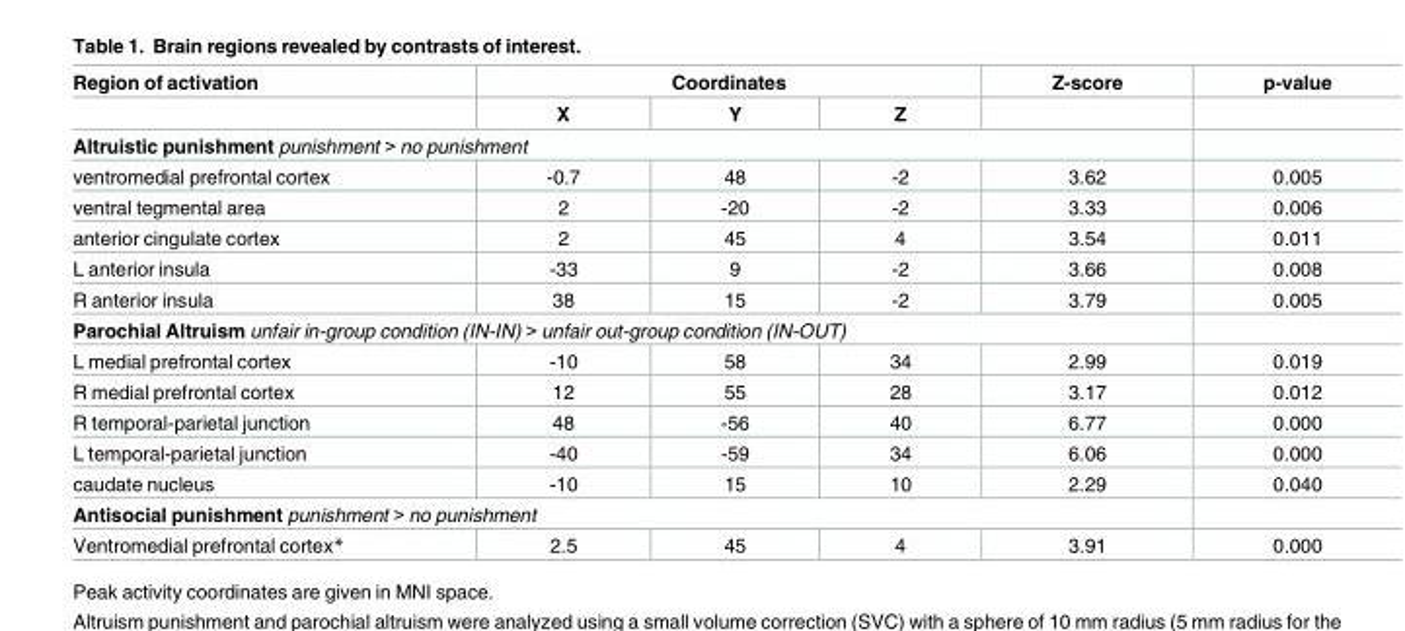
<table><thead><tr><td rowspan="2">Region of activation</td><td colspan="3">Coordinates</td><td rowspan="2">Z-score</td><td rowspan="2">p-value</td></tr><tr><td>X</td><td>Y</td><td>Z</td></tr></thead><tbody><tr><td colspan="6">Altruistic punishment punishment &gt; no punishment</td></tr><tr><td>ventromedial prefrontal cortex</td><td>-0.7</td><td>48</td><td>-2</td><td>3.62</td><td>0.005</td></tr><tr><td>ventral tegmental area</td><td>2</td><td>-20</td><td>-2</td><td>3.33</td><td>0.006</td></tr><tr><td>anterior cingulate cortex</td><td>2</td><td>45</td><td>4</td><td>3.54</td><td>0.011</td></tr><tr><td>L anterior insula</td><td>-33</td><td>9</td><td>-2</td><td>3.66</td><td>0.008</td></tr><tr><td>R anterior insula</td><td>38</td><td>15</td><td>-2</td><td>3.79</td><td>0.005</td></tr><tr><td colspan="6">Parochial Altruism unfair in-group condition (IN-IN) &gt; unfair out-group condition (IN-OUT)</td></tr><tr><td>L medial prefrontal cortex</td><td>-10</td><td>58</td><td>34</td><td>2.99</td><td>0.019</td></tr><tr><td>R medial prefrontal cortex</td><td>12</td><td>55</td><td>28</td><td>3.17</td><td>0.012</td></tr><tr><td>R temporal-parietal junction</td><td>48</td><td>-56</td><td>40</td><td>6.77</td><td>0.000</td></tr><tr><td>L temporal-parietal junction</td><td>-40</td><td>-59</td><td>34</td><td>6.06</td><td>0.000</td></tr><tr><td>caudate nucleus</td><td>-10</td><td>15</td><td>10</td><td>2.29</td><td>0.040</td></tr><tr><td colspan="6">Antisocial punishment punishment &gt; no punishment</td></tr><tr><td>Ventromedial prefrontal cortex*</td><td>2.5</td><td>45</td><td>4</td><td>3.91</td><td>0.000</td></tr></tbody></table>